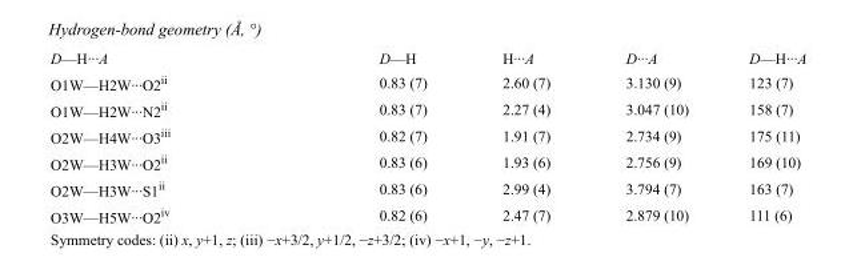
<table><tbody><tr><td>D—H···A</td><td>D—H</td><td>H···A</td><td>D···A</td><td>D—H···A</td></tr><tr><td>O1W—H2W···O2<sup>ii</sup></td><td>0.83 (7)</td><td>2.60 (7)</td><td>3.130 (9)</td><td>123 (7)</td></tr><tr><td>O1W—H2W···N2<sup>ii</sup></td><td>0.83 (7)</td><td>2.27 (4)</td><td>3.047 (10)</td><td>158 (7)</td></tr><tr><td>O2W—H4W···O3<sup>iii</sup></td><td>0.82 (7)</td><td>1.91 (7)</td><td>2.734 (9)</td><td>175 (11)</td></tr><tr><td>O2W—H3W···O2<sup>ii</sup></td><td>0.83 (6)</td><td>1.93 (6)</td><td>2.756 (9)</td><td>169 (10)</td></tr><tr><td>O2W—H3W···S1<sup>ii</sup></td><td>0.83 (6)</td><td>2.99 (4)</td><td>3.794 (7)</td><td>163 (7)</td></tr><tr><td>O3W—H5W···O2<sup>iv</sup></td><td>0.82 (6)</td><td>2.47 (7)</td><td>2.879 (10)</td><td>111 (6)</td></tr></tbody></table>